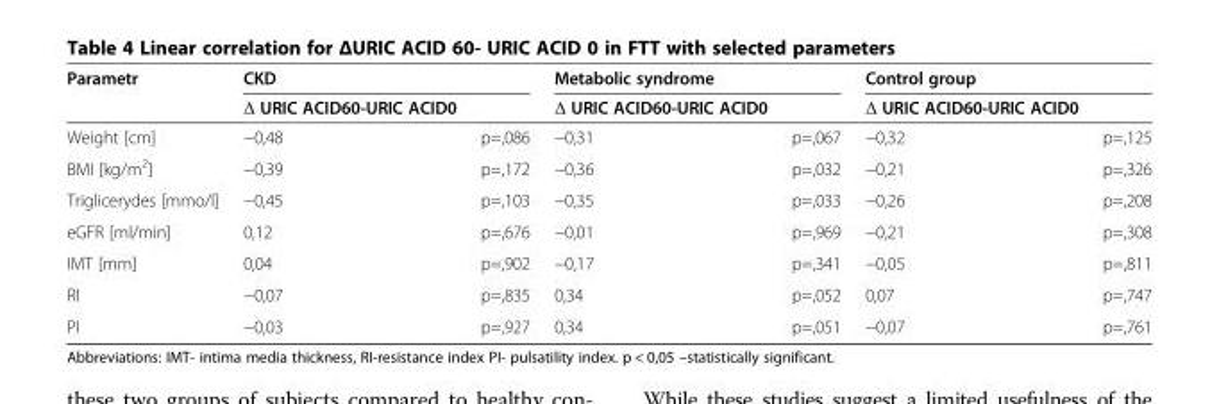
<table><thead><tr><td rowspan="2">Parametr</td><td colspan="2">CKD</td><td colspan="2">Metabolic syndrome</td><td colspan="2">Control group</td></tr><tr><td>Δ URIC ACID60-URIC ACID0</td><td></td><td>Δ URIC ACID60-URIC ACID0</td><td></td><td>Δ URIC ACID60-URIC ACID0</td><td></td></tr></thead><tbody><tr><td>Weight [cm]</td><td>−0,48</td><td>p=,086</td><td>−0,31</td><td>p=,067</td><td>−0,32</td><td>p=,125</td></tr><tr><td>BMI [kg/m<sup>2</sup>]</td><td>−0,39</td><td>p=,172</td><td>−0,36</td><td>p=,032</td><td>−0,21</td><td>p=,326</td></tr><tr><td>Triglicerydes [mmo/l]</td><td>−0,45</td><td>p=,103</td><td>−0,35</td><td>p=,033</td><td>−0,26</td><td>p=,208</td></tr><tr><td>eGFR [ml/min]</td><td>0,12</td><td>p=,676</td><td>−0,01</td><td>p=,969</td><td>−0,21</td><td>p=,308</td></tr><tr><td>IMT [mm]</td><td>0,04</td><td>p=,902</td><td>−0,17</td><td>p=,341</td><td>−0,05</td><td>p=,811</td></tr><tr><td>RI</td><td>−0,07</td><td>p=,835</td><td>0,34</td><td>p=,052</td><td>0,07</td><td>p=,747</td></tr><tr><td>PI</td><td>−0,03</td><td>p=,927</td><td>0,34</td><td>p=,051</td><td>−0,07</td><td>p=,761</td></tr></tbody></table>